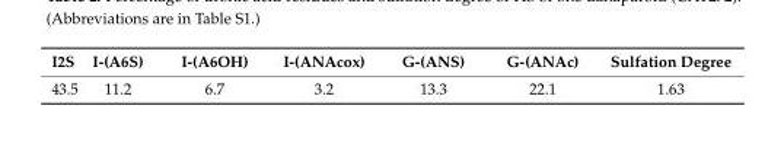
<table><thead><tr><td>I2S</td><td>I-(A6S)</td><td>I-(A6OH)</td><td>I-(ANAcox)</td><td>G-(ANS)</td><td>G-(ANAc)</td><td>Sulfation Degree</td></tr></thead><tbody><tr><td>43.5</td><td>11.2</td><td>6.7</td><td>3.2</td><td>13.3</td><td>22.1</td><td>1.63</td></tr></tbody></table>